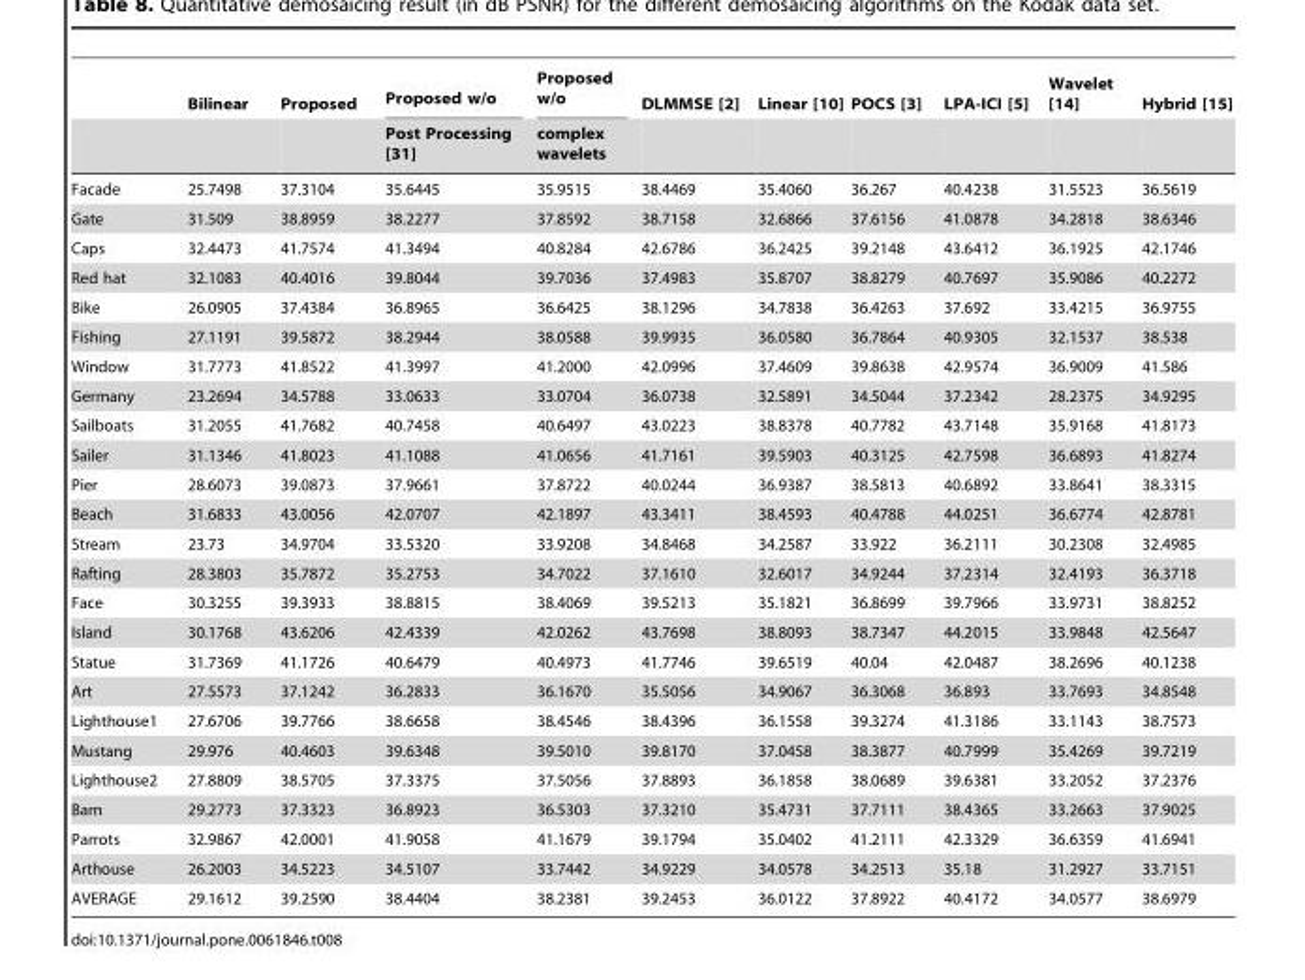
<table><thead><tr><td rowspan="2"></td><td rowspan="2">Bilinear</td><td rowspan="2">Proposed</td><td rowspan="2">Proposed w/o Post Processing [31]</td><td rowspan="2">Proposed w/o complex wavelets</td><td rowspan="2">DLMMSE [2]</td><td rowspan="2">Linear [10]</td><td rowspan="2">POCS [3]</td><td rowspan="2">LPA-ICI [5]</td><td rowspan="2">Wavelet [14]</td><td rowspan="2">Hybrid [15]</td></tr><tr></tr></thead><tbody><tr><td>Facade</td><td>25.7498</td><td>37.3104</td><td>35.6445</td><td>35.9515</td><td>38.4469</td><td>35.4060</td><td>36.267</td><td>40.4238</td><td>31.5523</td><td>36.5619</td></tr><tr><td>Gate</td><td>31.509</td><td>38.8959</td><td>38.2277</td><td>37.8592</td><td>38.7158</td><td>32.6866</td><td>37.6156</td><td>41.0878</td><td>34.2818</td><td>38.6346</td></tr><tr><td>Caps</td><td>32.4473</td><td>41.7574</td><td>41.3494</td><td>40.8284</td><td>42.6786</td><td>36.2425</td><td>39.2148</td><td>43.6412</td><td>36.1925</td><td>42.1746</td></tr><tr><td>Red hat</td><td>32.1083</td><td>40.4016</td><td>39.8044</td><td>39.7036</td><td>37.4983</td><td>35.8707</td><td>38.8279</td><td>40.7697</td><td>35.9086</td><td>40.2272</td></tr><tr><td>Bike</td><td>26.0905</td><td>37.4384</td><td>36.8965</td><td>36.6425</td><td>38.1296</td><td>34.7838</td><td>36.4263</td><td>37.692</td><td>33.4215</td><td>36.9755</td></tr><tr><td>Fishing</td><td>27.1191</td><td>39.5872</td><td>38.2944</td><td>38.0588</td><td>39.9935</td><td>36.0580</td><td>36.7864</td><td>40.9305</td><td>32.1537</td><td>38.538</td></tr><tr><td>Window</td><td>31.7773</td><td>41.8522</td><td>41.3997</td><td>41.2000</td><td>42.0996</td><td>37.4609</td><td>39.8638</td><td>42.9574</td><td>36.9009</td><td>41.586</td></tr><tr><td>Germany</td><td>23.2694</td><td>34.5788</td><td>33.0633</td><td>33.0704</td><td>36.0738</td><td>32.5891</td><td>34.5044</td><td>37.2342</td><td>28.2375</td><td>34.9295</td></tr><tr><td>Sailboats</td><td>31.2055</td><td>41.7682</td><td>40.7458</td><td>40.6497</td><td>43.0223</td><td>38.8378</td><td>40.7782</td><td>43.7148</td><td>35.9168</td><td>41.8173</td></tr><tr><td>Sailer</td><td>31.1346</td><td>41.8023</td><td>41.1088</td><td>41.0656</td><td>41.7161</td><td>39.5903</td><td>40.3125</td><td>42.7598</td><td>36.6893</td><td>41.8274</td></tr><tr><td>Pier</td><td>28.6073</td><td>39.0873</td><td>37.9661</td><td>37.8722</td><td>40.0244</td><td>36.9387</td><td>38.5813</td><td>40.6892</td><td>33.8641</td><td>38.3315</td></tr><tr><td>Beach</td><td>31.6833</td><td>43.0056</td><td>42.0707</td><td>42.1897</td><td>43.3411</td><td>38.4593</td><td>40.4788</td><td>44.0251</td><td>36.6774</td><td>42.8781</td></tr><tr><td>Stream</td><td>23.73</td><td>34.9704</td><td>33.5320</td><td>33.9208</td><td>34.8468</td><td>34.2587</td><td>33.922</td><td>36.2111</td><td>30.2308</td><td>32.4985</td></tr><tr><td>Rafting</td><td>28.3803</td><td>35.7872</td><td>35.2753</td><td>34.7022</td><td>37.1610</td><td>32.6017</td><td>34.9244</td><td>37.2314</td><td>32.4193</td><td>36.3718</td></tr><tr><td>Face</td><td>30.3255</td><td>39.3933</td><td>38.8815</td><td>38.4069</td><td>39.5213</td><td>35.1821</td><td>36.8699</td><td>39.7966</td><td>33.9731</td><td>38.8252</td></tr><tr><td>Island</td><td>30.1768</td><td>43.6206</td><td>42.4339</td><td>42.0262</td><td>43.7698</td><td>38.8093</td><td>38.7347</td><td>44.2015</td><td>33.9848</td><td>42.5647</td></tr><tr><td>Statue</td><td>31.7369</td><td>41.1726</td><td>40.6479</td><td>40.4973</td><td>41.7746</td><td>39.6519</td><td>40.04</td><td>42.0487</td><td>38.2696</td><td>40.1238</td></tr><tr><td>Art</td><td>27.5573</td><td>37.1242</td><td>36.2833</td><td>36.1670</td><td>35.5056</td><td>34.9067</td><td>36.3068</td><td>36.893</td><td>33.7693</td><td>34.8548</td></tr><tr><td>Lighthouse1</td><td>27.6706</td><td>39.7766</td><td>38.6658</td><td>38.4546</td><td>38.4396</td><td>36.1558</td><td>39.3274</td><td>41.3186</td><td>33.1143</td><td>38.7573</td></tr><tr><td>Mustang</td><td>29.976</td><td>40.4603</td><td>39.6348</td><td>39.5010</td><td>39.8170</td><td>37.0458</td><td>38.3877</td><td>40.7999</td><td>35.4269</td><td>39.7219</td></tr><tr><td>Lighthouse2</td><td>27.8809</td><td>38.5705</td><td>37.3375</td><td>37.5056</td><td>37.8893</td><td>36.1858</td><td>38.0689</td><td>39.6381</td><td>33.2052</td><td>37.2376</td></tr><tr><td>Barn</td><td>29.2773</td><td>37.3323</td><td>36.8923</td><td>36.5303</td><td>37.3210</td><td>35.4731</td><td>37.7111</td><td>38.4365</td><td>33.2663</td><td>37.9025</td></tr><tr><td>Parrots</td><td>32.9867</td><td>42.0001</td><td>41.9058</td><td>41.1679</td><td>39.1794</td><td>35.0402</td><td>41.2111</td><td>42.3329</td><td>36.6359</td><td>41.6941</td></tr><tr><td>Arthouse</td><td>26.2003</td><td>34.5223</td><td>34.5107</td><td>33.7442</td><td>34.9229</td><td>34.0578</td><td>34.2513</td><td>35.18</td><td>31.2927</td><td>33.7151</td></tr><tr><td>AVERAGE</td><td>29.1612</td><td>39.2590</td><td>38.4404</td><td>38.2381</td><td>39.2453</td><td>36.0122</td><td>37.8922</td><td>40.4172</td><td>34.0577</td><td>38.6979</td></tr></tbody></table>